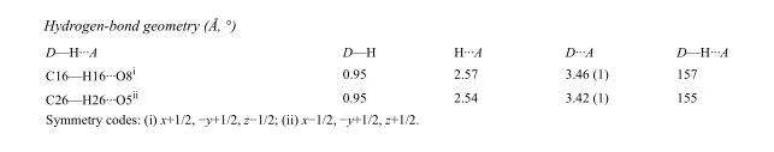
<table><tbody><tr><td>D—H···A</td><td>D—H</td><td>H···A</td><td>D···A</td><td>D—H···A</td></tr><tr><td>C16—H16···O8<sup>i</sup></td><td>0.95</td><td>2.57</td><td>3.46 (1)</td><td>157</td></tr><tr><td>C26—H26···O5<sup>ii</sup></td><td>0.95</td><td>2.54</td><td>3.42 (1)</td><td>155</td></tr></tbody></table>